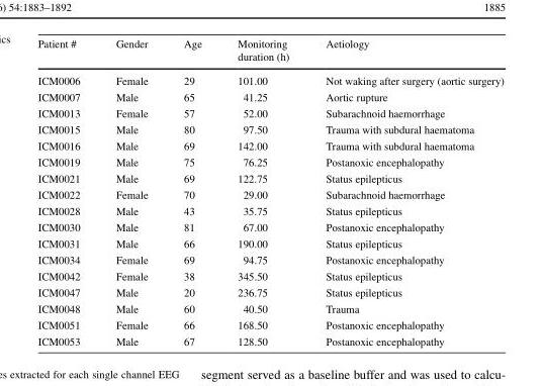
<table><thead><tr><td>Patient #</td><td>Gender</td><td>Age</td><td>Monitoring duration (h)</td><td>Aetiology</td></tr></thead><tbody><tr><td>ICM0006</td><td>Female</td><td>29</td><td>101.00</td><td>Not waking after surgery (aortic surgery)</td></tr><tr><td>ICM0007</td><td>Male</td><td>65</td><td>41.25</td><td>Aortic rupture</td></tr><tr><td>ICM0013</td><td>Female</td><td>57</td><td>52.00</td><td>Subarachnoid haemorrhage</td></tr><tr><td>ICM0015</td><td>Male</td><td>80</td><td>97.50</td><td>Trauma with subdural haematoma</td></tr><tr><td>ICM0016</td><td>Male</td><td>69</td><td>142.00</td><td>Trauma with subdural haematoma</td></tr><tr><td>ICM0019</td><td>Male</td><td>75</td><td>76.25</td><td>Postanoxic encephalopathy</td></tr><tr><td>ICM0021</td><td>Male</td><td>69</td><td>122.75</td><td>Status epilepticus</td></tr><tr><td>ICM0022</td><td>Female</td><td>70</td><td>29.00</td><td>Subarachnoid haemorrhage</td></tr><tr><td>ICM0028</td><td>Male</td><td>43</td><td>35.75</td><td>Status epilepticus</td></tr><tr><td>ICM0030</td><td>Male</td><td>81</td><td>67.00</td><td>Postanoxic encephalopathy</td></tr><tr><td>ICM0031</td><td>Male</td><td>66</td><td>190.00</td><td>Status epilepticus</td></tr><tr><td>ICM0034</td><td>Female</td><td>69</td><td>94.75</td><td>Postanoxic encephalopathy</td></tr><tr><td>ICM0042</td><td>Female</td><td>38</td><td>345.50</td><td>Status epilepticus</td></tr><tr><td>ICM0047</td><td>Male</td><td>20</td><td>236.75</td><td>Status epilepticus</td></tr><tr><td>ICM0048</td><td>Male</td><td>60</td><td>40.50</td><td>Trauma</td></tr><tr><td>ICM0051</td><td>Female</td><td>66</td><td>168.50</td><td>Postanoxic encephalopathy</td></tr><tr><td>ICM0053</td><td>Male</td><td>67</td><td>128.50</td><td>Postanoxic encephalopathy</td></tr></tbody></table>